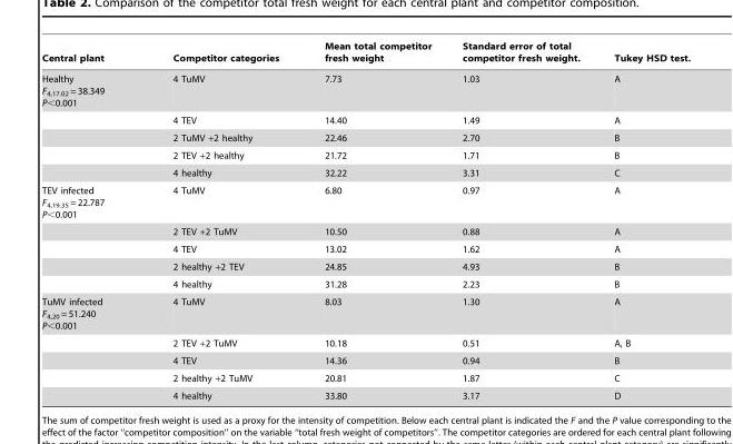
<table><thead><tr><td>Central plant</td><td>Competitor categories</td><td>Mean total competitor fresh weight</td><td>Standard error of total competitor fresh weight.</td><td>Tukey HSD test.</td></tr></thead><tbody><tr><td rowspan="5">Healthy F<sub>4,17.02</sub> = 38.349 P&lt;0.001</td><td>4 TuMV</td><td>7.73</td><td>1.03</td><td>A</td></tr><tr><td>4 TEV</td><td>14.40</td><td>1.49</td><td>A</td></tr><tr><td>2 TuMV +2 healthy</td><td>22.46</td><td>2.70</td><td>B</td></tr><tr><td>2 TEV +2 healthy</td><td>21.72</td><td>1.71</td><td>B</td></tr><tr><td>4 healthy</td><td>32.22</td><td>3.31</td><td>C</td></tr><tr><td rowspan="5">TEV infected F<sub>4,19.35</sub> = 22.787 P&lt;0.001</td><td>4 TuMV</td><td>6.80</td><td>0.97</td><td>A</td></tr><tr><td>2 TEV +2 TuMV</td><td>10.50</td><td>0.88</td><td>A</td></tr><tr><td>4 TEV</td><td>13.02</td><td>1.62</td><td>A</td></tr><tr><td>2 healthy +2 TEV</td><td>24.85</td><td>4.93</td><td>B</td></tr><tr><td>4 healthy</td><td>31.28</td><td>2.23</td><td>B</td></tr><tr><td rowspan="5">TuMV infected F<sub>4,20</sub> = 51.240 P&lt;0.001</td><td>4 TuMV</td><td>8.03</td><td>1.30</td><td>A</td></tr><tr><td>2 TEV +2 TuMV</td><td>10.18</td><td>0.51</td><td>A, B</td></tr><tr><td>4 TEV</td><td>14.36</td><td>0.94</td><td>B</td></tr><tr><td>2 healthy +2 TuMV</td><td>20.81</td><td>1.87</td><td>C</td></tr><tr><td>4 healthy</td><td>33.80</td><td>3.17</td><td>D</td></tr></tbody></table>